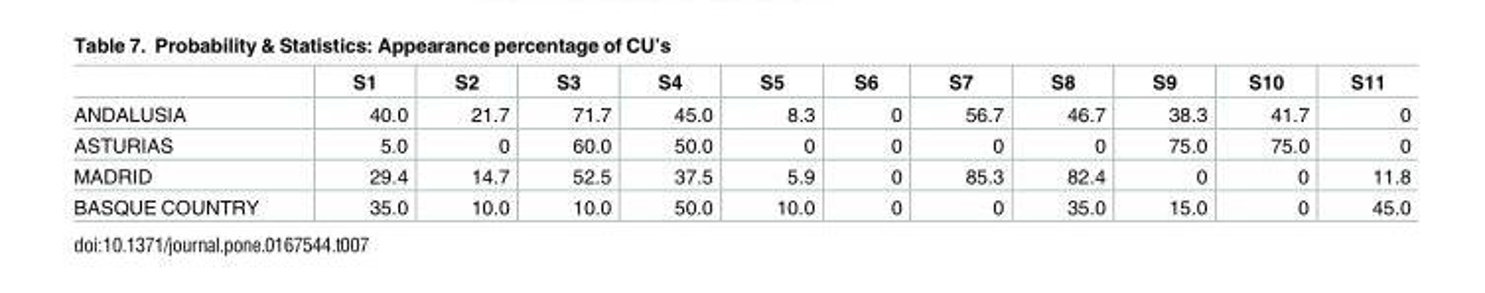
<table><thead><tr><td></td><td>S1</td><td>S2</td><td>S3</td><td>S4</td><td>S5</td><td>S6</td><td>S7</td><td>S8</td><td>S9</td><td>S10</td><td>S11</td></tr></thead><tbody><tr><td>ANDALUSIA</td><td>40.0</td><td>21.7</td><td>71.7</td><td>45.0</td><td>8.3</td><td>0</td><td>56.7</td><td>46.7</td><td>38.3</td><td>41.7</td><td>0</td></tr><tr><td>ASTURIAS</td><td>5.0</td><td>0</td><td>60.0</td><td>50.0</td><td>0</td><td>0</td><td>0</td><td>0</td><td>75.0</td><td>75.0</td><td>0</td></tr><tr><td>MADRID</td><td>29.4</td><td>14.7</td><td>52.5</td><td>37.5</td><td>5.9</td><td>0</td><td>85.3</td><td>82.4</td><td>0</td><td>0</td><td>11.8</td></tr><tr><td>BASQUE COUNTRY</td><td>35.0</td><td>10.0</td><td>10.0</td><td>50.0</td><td>10.0</td><td>0</td><td>0</td><td>35.0</td><td>15.0</td><td>0</td><td>45.0</td></tr></tbody></table>